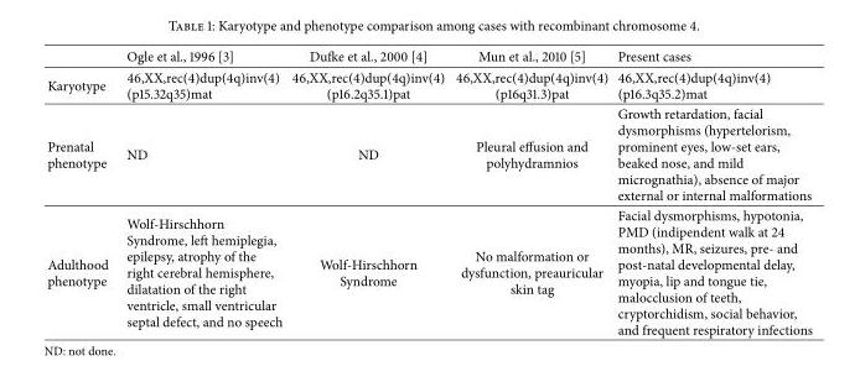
<table><thead><tr><td></td><td>Ogle et al., 1996 [3]</td><td>Dufke et al., 2000 [4]</td><td>Mun et al., 2010 [5]</td><td>Present cases</td></tr></thead><tbody><tr><td>Karyotype</td><td>46,XX,rec(4)dup(4q)inv(4) (p15.32q35)mat</td><td>46,XX,rec(4)dup(4q)inv(4) (p16.2q35.1)pat</td><td>46,XX,rec(4)dup(4q)inv(4) (p16q31.3)pat</td><td>46,XX,rec(4)dup(4q)inv(4) (p16.3q35.2)mat</td></tr><tr><td>Prenatal phenotype</td><td>ND</td><td>ND</td><td>Pleural effusion and polyhydramnios</td><td>Growth retardation, facial dysmorphisms (hypertelorism, prominent eyes, low-set ears, beaked nose, and mild micrognathia), absence of major external or internal malformations</td></tr><tr><td>Adulthood phenotype</td><td>Wolf-Hirschhorn Syndrome, left hemiplegia, epilepsy, atrophy of the right cerebral hemisphere, dilatation of the right ventricle, small ventricular septal defect, and no speech</td><td>Wolf-Hirschhorn Syndrome</td><td>No malformation or dysfunction, preauricular skin tag</td><td>Facial dysmorphisms, hypotonia, PMD (indipendent walk at 24 months), MR, seizures, pre- and post-natal developmental delay, myopia, lip and tongue tie, malocclusion of teeth, cryptorchidism, social behavior, and frequent respiratory infections</td></tr></tbody></table>